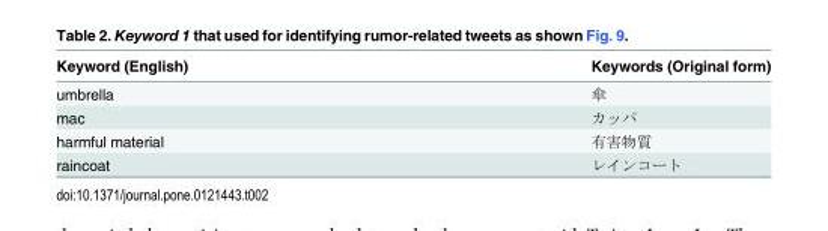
<table><thead><tr><td>Keyword (English)</td><td>Keywords (Original form)</td></tr></thead><tbody><tr><td>umbrella</td><td>傘</td></tr><tr><td>mac</td><td>カッパ</td></tr><tr><td>harmful material</td><td>有害物質</td></tr><tr><td>raincoat</td><td>レインコート</td></tr></tbody></table>